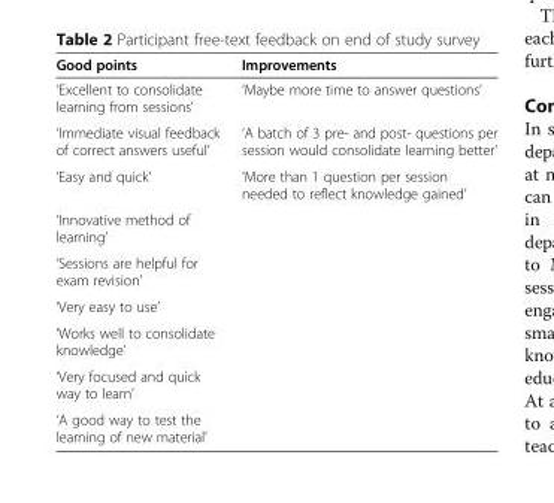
<table><thead><tr><td>Good points</td><td>Improvements</td></tr></thead><tbody><tr><td>‘Excellent to consolidate learning from sessions’</td><td>‘Maybe more time to answer questions’</td></tr><tr><td>‘Immediate visual feedback of correct answers useful’</td><td>‘A batch of 3 pre- and post- questions per session would consolidate learning better’</td></tr><tr><td>‘Easy and quick’</td><td>‘More than 1 question per session needed to reflect knowledge gained’</td></tr><tr><td colspan="2">‘Innovative method of learning’</td></tr><tr><td colspan="2">‘Sessions are helpful for exam revision’</td></tr><tr><td colspan="2">‘Very easy to use’</td></tr><tr><td colspan="2">‘Works well to consolidate knowledge’</td></tr><tr><td colspan="2">‘Very focused and quick way to learn’</td></tr><tr><td>‘A good way to test the learning of new material’</td><td></td></tr></tbody></table>